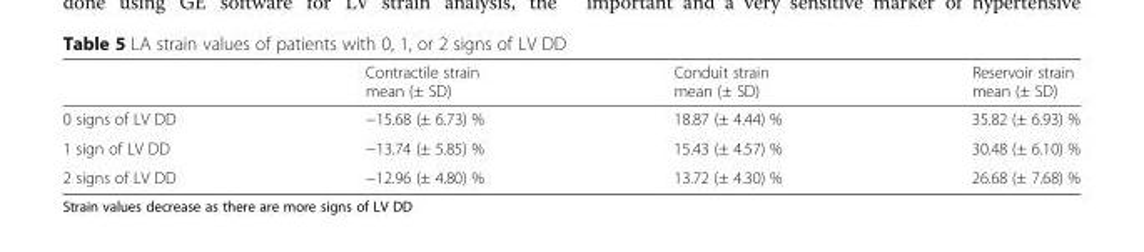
<table><thead><tr><td></td><td>Contractile strain mean (± SD)</td><td>Conduit strain mean (± SD)</td><td>Reservoir strain mean (± SD)</td></tr></thead><tbody><tr><td>0 signs of LV DD</td><td>−15.68 (± 6.73) %</td><td>18.87 (± 4.44) %</td><td>35.82 (± 6.93) %</td></tr><tr><td>1 sign of LV DD</td><td>−13.74 (± 5.85) %</td><td>15.43 (± 4.57) %</td><td>30.48 (± 6.10) %</td></tr><tr><td>2 signs of LV DD</td><td>−12.96 (± 4.80) %</td><td>13.72 (± 4.30) %</td><td>26.68 (± 7.68) %</td></tr></tbody></table>